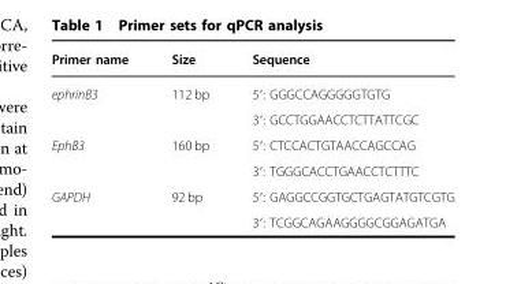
<table><thead><tr><td>Primer name</td><td>Size</td><td>Sequence</td></tr></thead><tbody><tr><td rowspan="2">ephrinB3</td><td>112 bp</td><td>5′: GGGCCAGGGGGTGTG</td></tr><tr><td></td><td>3′: GCCTGGAACCTCTTATTCGC</td></tr><tr><td rowspan="2">EphB3</td><td>160 bp</td><td>5′: CTCCACTGTAACCAGCCAG</td></tr><tr><td></td><td>3′: TGGGCACCTGAACCTCTTTC</td></tr><tr><td rowspan="2">GAPDH</td><td>92 bp</td><td>5′: GAGGCCGGTGCTGAGTATGTCGTG</td></tr><tr><td></td><td>3′: TCGGCAGAAGGGGCGGAGATGA</td></tr></tbody></table>